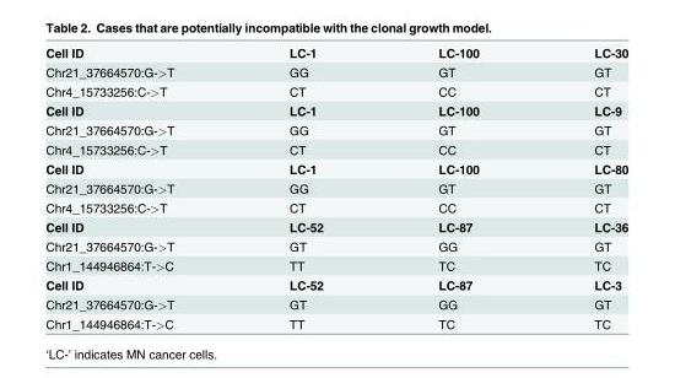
<table><tbody><tr><td>Cell ID</td><td>LC-1</td><td>LC-100</td><td>LC-30</td></tr><tr><td>Chr21_37664570:G-&gt;T</td><td>GG</td><td>GT</td><td>GT</td></tr><tr><td>Chr4_15733256:C-&gt;T</td><td>CT</td><td>CC</td><td>CT</td></tr><tr><td>Cell ID</td><td>LC-1</td><td>LC-100</td><td>LC-9</td></tr><tr><td>Chr21_37664570:G-&gt;T</td><td>GG</td><td>GT</td><td>GT</td></tr><tr><td>Chr4_15733256:C-&gt;T</td><td>CT</td><td>CC</td><td>CT</td></tr><tr><td>Cell ID</td><td>LC-1</td><td>LC-100</td><td>LC-80</td></tr><tr><td>Chr21_37664570:G-&gt;T</td><td>GG</td><td>GT</td><td>GT</td></tr><tr><td>Chr4_15733256:C-&gt;T</td><td>CT</td><td>CC</td><td>CT</td></tr><tr><td>Cell ID</td><td>LC-52</td><td>LC-87</td><td>LC-36</td></tr><tr><td>Chr21_37664570:G-&gt;T</td><td>GT</td><td>GG</td><td>GT</td></tr><tr><td>Chr1_144946864:T-&gt;C</td><td>TT</td><td>TC</td><td>TC</td></tr><tr><td>Cell ID</td><td>LC-52</td><td>LC-87</td><td>LC-3</td></tr><tr><td>Chr21_37664570:G-&gt;T</td><td>GT</td><td>GG</td><td>GT</td></tr><tr><td>Chr1_144946864:T-&gt;C</td><td>TT</td><td>TC</td><td>TC</td></tr></tbody></table>